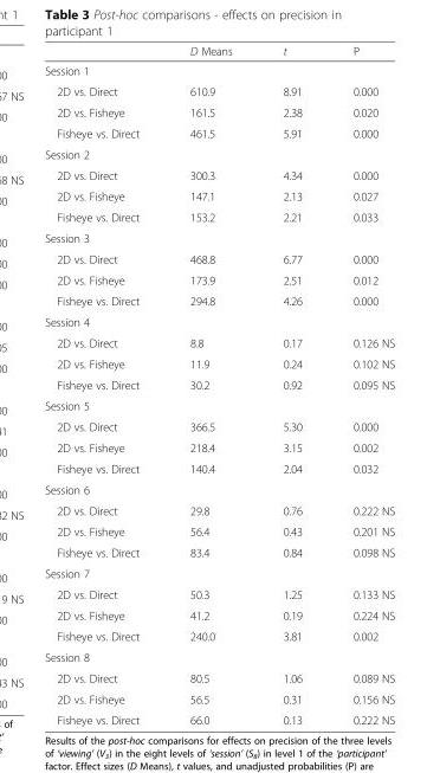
<table><thead><tr><td></td><td>D Means</td><td>t</td><td>P</td></tr></thead><tbody><tr><td colspan="4">Session 1</td></tr><tr><td>2D vs. Direct</td><td>610.9</td><td>8.91</td><td>0.000</td></tr><tr><td>2D vs. Fisheye</td><td>161.5</td><td>2.38</td><td>0.020</td></tr><tr><td>Fisheye vs. Direct</td><td>461.5</td><td>5.91</td><td>0.000</td></tr><tr><td colspan="4">Session 2</td></tr><tr><td>2D vs. Direct</td><td>300.3</td><td>4.34</td><td>0.000</td></tr><tr><td>2D vs. Fisheye</td><td>147.1</td><td>2.13</td><td>0.027</td></tr><tr><td>Fisheye vs. Direct</td><td>153.2</td><td>2.21</td><td>0.033</td></tr><tr><td colspan="4">Session 3</td></tr><tr><td>2D vs. Direct</td><td>468.8</td><td>6.77</td><td>0.000</td></tr><tr><td>2D vs. Fisheye</td><td>173.9</td><td>2.51</td><td>0.012</td></tr><tr><td>Fisheye vs. Direct</td><td>294.8</td><td>4.26</td><td>0.000</td></tr><tr><td colspan="4">Session 4</td></tr><tr><td>2D vs. Direct</td><td>8.8</td><td>0.17</td><td>0.126 NS</td></tr><tr><td>2D vs. Fisheye</td><td>11.9</td><td>0.24</td><td>0.102 NS</td></tr><tr><td>Fisheye vs. Direct</td><td>30.2</td><td>0.92</td><td>0.095 NS</td></tr><tr><td colspan="4">Session 5</td></tr><tr><td>2D vs. Direct</td><td>366.5</td><td>5.30</td><td>0.000</td></tr><tr><td>2D vs. Fisheye</td><td>218.4</td><td>3.15</td><td>0.002</td></tr><tr><td>Fisheye vs. Direct</td><td>140.4</td><td>2.04</td><td>0.032</td></tr><tr><td colspan="4">Session 6</td></tr><tr><td>2D vs. Direct</td><td>29.8</td><td>0.76</td><td>0.222 NS</td></tr><tr><td>2D vs. Fisheye</td><td>56.4</td><td>0.43</td><td>0.201 NS</td></tr><tr><td>Fisheye vs. Direct</td><td>83.4</td><td>0.84</td><td>0.098 NS</td></tr><tr><td colspan="4">Session 7</td></tr><tr><td>2D vs. Direct</td><td>50.3</td><td>1.25</td><td>0.133 NS</td></tr><tr><td>2D vs. Fisheye</td><td>41.2</td><td>0.19</td><td>0.224 NS</td></tr><tr><td>Fisheye vs. Direct</td><td>240.0</td><td>3.81</td><td>0.002</td></tr><tr><td colspan="4">Session 8</td></tr><tr><td>2D vs. Direct</td><td>80.5</td><td>1.06</td><td>0.089 NS</td></tr><tr><td>2D vs. Fisheye</td><td>56.5</td><td>0.31</td><td>0.156 NS</td></tr><tr><td>Fisheye vs. Direct</td><td>66.0</td><td>0.13</td><td>0.222 NS</td></tr></tbody></table>